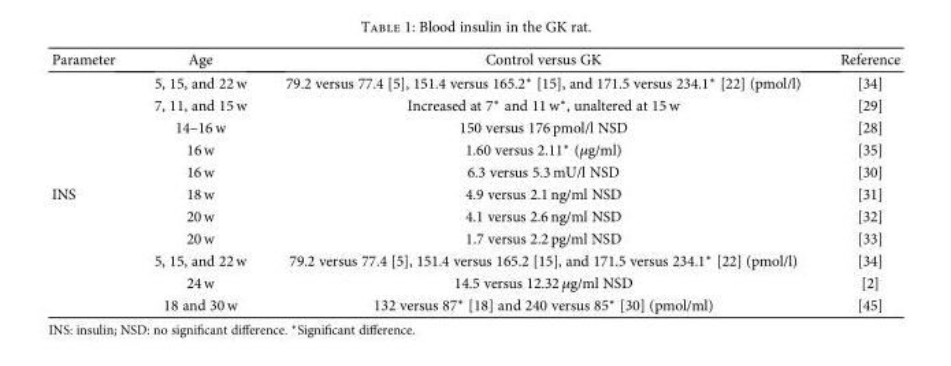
<table><thead><tr><td>Parameter</td><td>Age</td><td>Control versus GK</td><td>Reference</td></tr></thead><tbody><tr><td rowspan="11">INS</td><td>5, 15, and 22 w</td><td>79.2 versus 77.4 [5], 151.4 versus 165.2∗ [15], and 171.5 versus 234.1∗ [22] (pmol/l)</td><td>[34]</td></tr><tr><td>7, 11, and 15 w</td><td>Increased at 7∗ and 11 w∗, unaltered at 15 w</td><td>[29]</td></tr><tr><td>14–16 w</td><td>150 versus 176 pmol/l NSD</td><td>[28]</td></tr><tr><td>16 w</td><td>1.60 versus 2.11∗ (μg/ml)</td><td>[35]</td></tr><tr><td>16 w</td><td>6.3 versus 5.3 mU/l NSD</td><td>[30]</td></tr><tr><td>18 w</td><td>4.9 versus 2.1 ng/ml NSD</td><td>[31]</td></tr><tr><td>20 w</td><td>4.1 versus 2.6 ng/ml NSD</td><td>[32]</td></tr><tr><td>20 w</td><td>1.7 versus 2.2 pg/ml NSD</td><td>[33]</td></tr><tr><td>5, 15, and 22 w</td><td>79.2 versus 77.4 [5], 151.4 versus 165.2 [15], and 171.5 versus 234.1∗ [22] (pmol/l)</td><td>[34]</td></tr><tr><td>24 w</td><td>14.5 versus 12.32 μg/ml NSD</td><td>[2]</td></tr><tr><td>18 and 30 w</td><td>132 versus 87∗ [18] and 240 versus 85∗ [30] (pmol/ml)</td><td>[45]</td></tr></tbody></table>